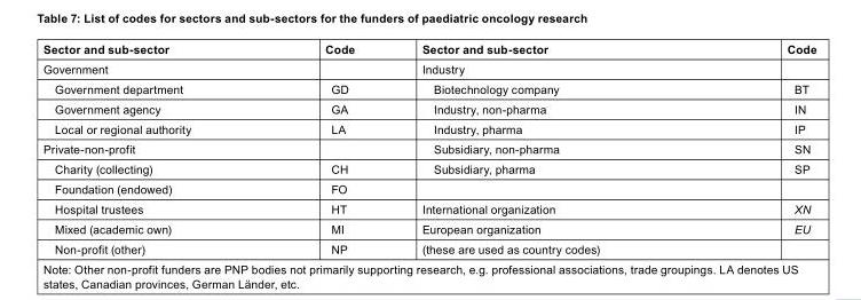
<table><thead><tr><td>Sector and sub-sector</td><td>Code</td><td>Sector and sub-sector</td><td>Code</td></tr></thead><tbody><tr><td>Government</td><td></td><td>Industry</td><td></td></tr><tr><td>Government department</td><td>GD</td><td>Biotechnology company</td><td>BT</td></tr><tr><td>Government agency</td><td>GA</td><td>Industry, non-pharma</td><td>IN</td></tr><tr><td>Local or regional authority</td><td>LA</td><td>Industry, pharma</td><td>IP</td></tr><tr><td>Private-non-profit</td><td></td><td>Subsidiary, non-pharma</td><td>SN</td></tr><tr><td>Charity (collecting)</td><td>CH</td><td>Subsidiary, pharma</td><td>SP</td></tr><tr><td>Foundation (endowed)</td><td>FO</td><td></td><td></td></tr><tr><td>Hospital trustees</td><td>HT</td><td>International organization</td><td>XN</td></tr><tr><td>Mixed (academic own)</td><td>MI</td><td>European organization</td><td>EU</td></tr><tr><td>Non-profit (other)</td><td>NP</td><td>(these are used as country codes)</td><td></td></tr></tbody></table>